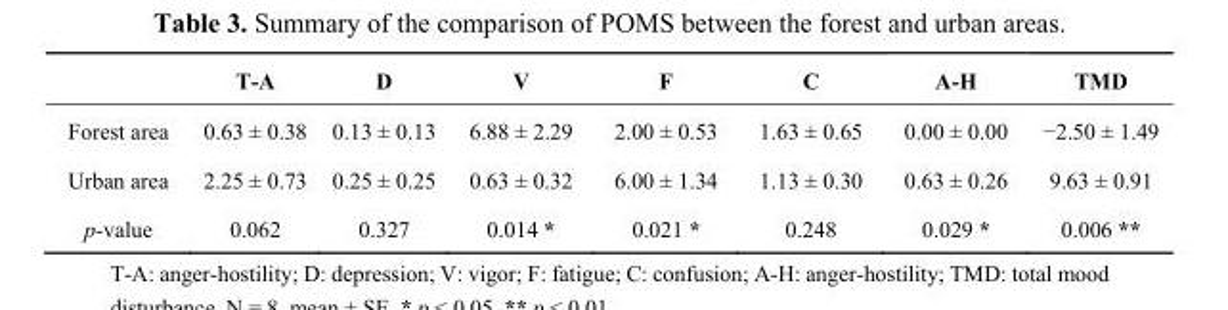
<table><thead><tr><td></td><td>T-A</td><td>D</td><td>V</td><td>F</td><td>C</td><td>A-H</td><td>TMD</td></tr></thead><tbody><tr><td>Forest area</td><td>0.63 ± 0.38</td><td>0.13 ± 0.13</td><td>6.88 ± 2.29</td><td>2.00 ± 0.53</td><td>1.63 ± 0.65</td><td>0.00 ± 0.00</td><td>−2.50 ± 1.49</td></tr><tr><td>Urban area</td><td>2.25 ± 0.73</td><td>0.25 ± 0.25</td><td>0.63 ± 0.32</td><td>6.00 ± 1.34</td><td>1.13 ± 0.30</td><td>0.63 ± 0.26</td><td>9.63 ± 0.91</td></tr><tr><td>p-value</td><td>0.062</td><td>0.327</td><td>0.014 *</td><td>0.021 *</td><td>0.248</td><td>0.029 *</td><td>0.006 **</td></tr></tbody></table>